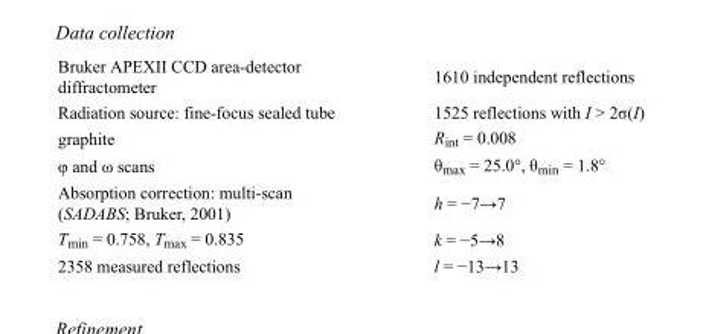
<table><tbody><tr><td>Bruker APEXII CCD area-detector diffractometer</td><td>1610 independent reflections</td></tr><tr><td>Radiation source: fine-focus sealed tube</td><td>1525 reflections with I &gt; 2σ(I)</td></tr><tr><td>graphite</td><td>R<sub>int</sub> = 0.008</td></tr><tr><td>φ and ω scans</td><td>θ<sub>max</sub> = 25.0°, θ<sub>min</sub> = 1.8°</td></tr><tr><td>Absorption correction: multi-scan (SADABS; Bruker, 2001)</td><td>h = −7→7</td></tr><tr><td>T<sub>min</sub> = 0.758, T<sub>max</sub> = 0.835</td><td>k = −5→8</td></tr><tr><td>2358 measured reflections</td><td>l = −13→13</td></tr></tbody></table>